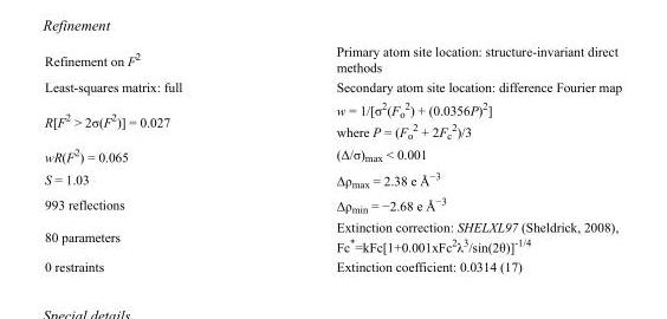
<table><tbody><tr><td>Refinement on F<sup>2</sup></td><td>Primary atom site location: structure-invariant direct methods</td></tr><tr><td>Least-squares matrix: full</td><td>Secondary atom site location: difference Fourier map</td></tr><tr><td>R[F<sup>2</sup> &gt; 2σ(F<sup>2</sup>)] = 0.027</td><td>w = 1/[σ<sup>2</sup>(F<sub>o</sub> <sup>2</sup>) + (0.0356P)<sup>2</sup>] where P = (F<sub>o</sub> <sup>2</sup> + 2F<sub>c</sub> <sup>2</sup>)/3</td></tr><tr><td>wR(F<sup>2</sup>) = 0.065</td><td>(Δ/σ)<sub>max</sub> &lt; 0.001</td></tr><tr><td>S = 1.03</td><td>Δρ<sub>max</sub> = 2.38 e Å<sup>−3</sup></td></tr><tr><td>993 reflections</td><td>Δρ<sub>min</sub> = −2.68 e Å<sup>−3</sup></td></tr><tr><td>80 parameters</td><td>Extinction correction: SHELXL97 (Sheldrick, 2008), Fc*=kFc[1+0.001xFc<sup>2</sup>λ<sup>3</sup>/sin(2θ)]<sup>-1/4</sup></td></tr><tr><td>0 restraints</td><td>Extinction coefficient: 0.0314 (17)</td></tr></tbody></table>